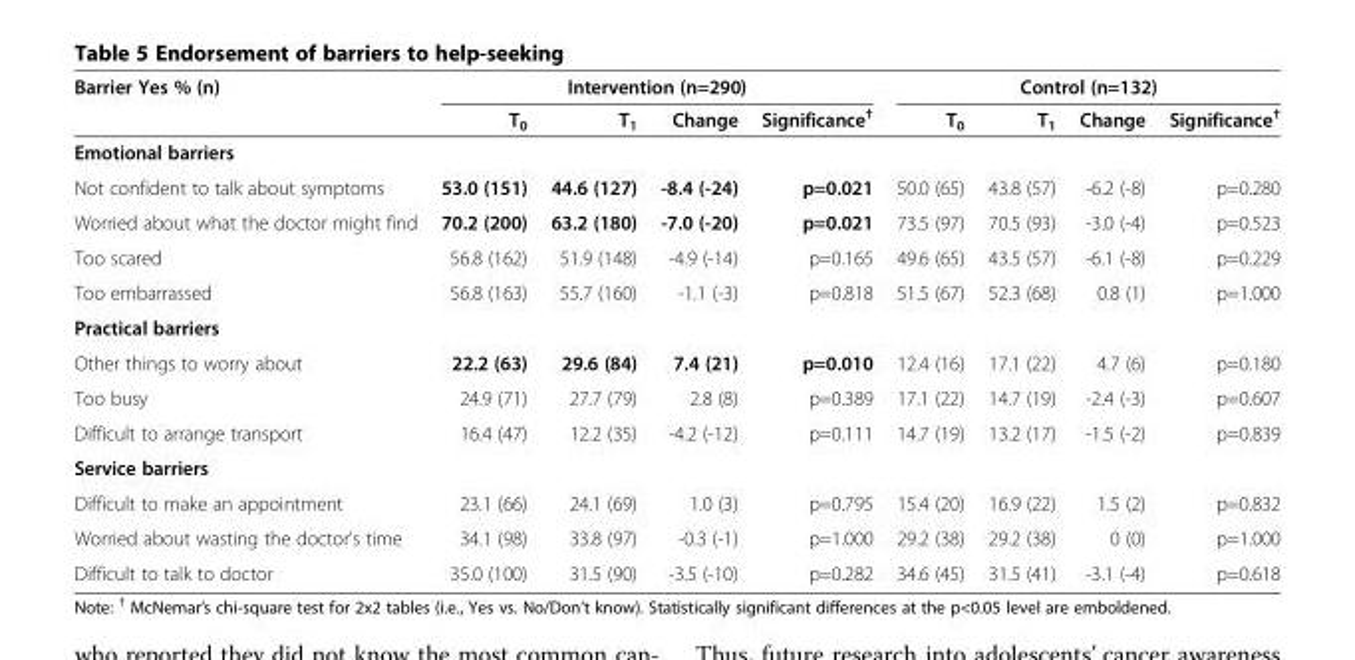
<table><thead><tr><td rowspan="2">Barrier Yes % (n)</td><td colspan="4">Intervention (n=290)</td><td colspan="4">Control (n=132)</td></tr><tr><td>T<sub>0</sub></td><td>T<sub>1</sub></td><td>Change</td><td>Significance<sup>†</sup></td><td>T<sub>0</sub></td><td>T<sub>1</sub></td><td>Change</td><td>Significance<sup>†</sup></td></tr></thead><tbody><tr><td colspan="9">Emotional barriers</td></tr><tr><td>Not confident to talk about symptoms</td><td>53.0 (151)</td><td>44.6 (127)</td><td>-8.4 (-24)</td><td>p=0.021</td><td>50.0 (65)</td><td>43.8 (57)</td><td>-6.2 (-8)</td><td>p=0.280</td></tr><tr><td>Worried about what the doctor might find</td><td>70.2 (200)</td><td>63.2 (180)</td><td>-7.0 (-20)</td><td>p=0.021</td><td>73.5 (97)</td><td>70.5 (93)</td><td>-3.0 (-4)</td><td>p=0.523</td></tr><tr><td>Too scared</td><td>56.8 (162)</td><td>51.9 (148)</td><td>-4.9 (-14)</td><td>p=0.165</td><td>49.6 (65)</td><td>43.5 (57)</td><td>-6.1 (-8)</td><td>p=0.229</td></tr><tr><td>Too embarrassed</td><td>56.8 (163)</td><td>55.7 (160)</td><td>-1.1 (-3)</td><td>p=0.818</td><td>51.5 (67)</td><td>52.3 (68)</td><td>0.8 (1)</td><td>p=1.000</td></tr><tr><td colspan="9">Practical barriers</td></tr><tr><td>Other things to worry about</td><td>22.2 (63)</td><td>29.6 (84)</td><td>7.4 (21)</td><td>p=0.010</td><td>12.4 (16)</td><td>17.1 (22)</td><td>4.7 (6)</td><td>p=0.180</td></tr><tr><td>Too busy</td><td>24.9 (71)</td><td>27.7 (79)</td><td>2.8 (8)</td><td>p=0.389</td><td>17.1 (22)</td><td>14.7 (19)</td><td>-2.4 (-3)</td><td>p=0.607</td></tr><tr><td>Difficult to arrange transport</td><td>16.4 (47)</td><td>12.2 (35)</td><td>-4.2 (-12)</td><td>p=0.111</td><td>14.7 (19)</td><td>13.2 (17)</td><td>-1.5 (-2)</td><td>p=0.839</td></tr><tr><td colspan="9">Service barriers</td></tr><tr><td>Difficult to make an appointment</td><td>23.1 (66)</td><td>24.1 (69)</td><td>1.0 (3)</td><td>p=0.795</td><td>15.4 (20)</td><td>16.9 (22)</td><td>1.5 (2)</td><td>p=0.832</td></tr><tr><td>Worried about wasting the doctor’s time</td><td>34.1 (98)</td><td>33.8 (97)</td><td>-0.3 (-1)</td><td>p=1.000</td><td>29.2 (38)</td><td>29.2 (38)</td><td>0 (0)</td><td>p=1.000</td></tr><tr><td>Difficult to talk to doctor</td><td>35.0 (100)</td><td>31.5 (90)</td><td>-3.5 (-10)</td><td>p=0.282</td><td>34.6 (45)</td><td>31.5 (41)</td><td>-3.1 (-4)</td><td>p=0.618</td></tr></tbody></table>